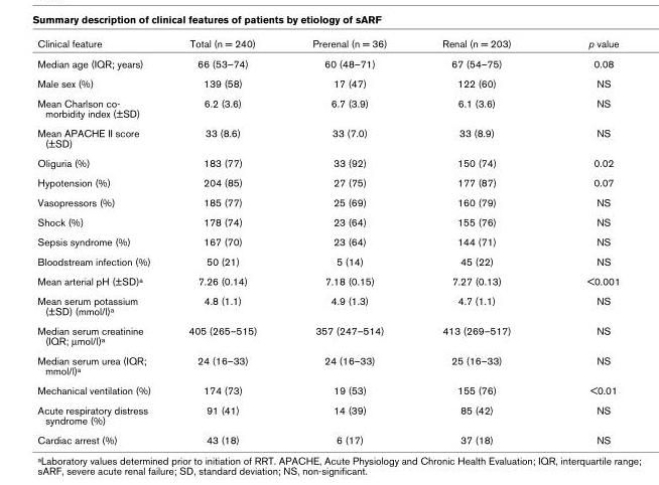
<table><thead><tr><td>Clinical feature</td><td>Total (n = 240)</td><td>Prerenal (n = 36)</td><td>Renal (n = 203)</td><td>p value</td></tr></thead><tbody><tr><td>Median age (IQR; years)</td><td>66 (53–74)</td><td>60 (48–71)</td><td>67 (54–75)</td><td>0.08</td></tr><tr><td>Male sex (%)</td><td>139 (58)</td><td>17 (47)</td><td>122 (60)</td><td>NS</td></tr><tr><td>Mean Charlson co- morbidity index (±SD)</td><td>6.2 (3.6)</td><td>6.7 (3.9)</td><td>6.1 (3.6)</td><td>NS</td></tr><tr><td>Mean APACHE II score (±SD)</td><td>33 (8.6)</td><td>33 (7.0)</td><td>33 (8.9)</td><td>NS</td></tr><tr><td>Oliguria (%)</td><td>183 (77)</td><td>33 (92)</td><td>150 (74)</td><td>0.02</td></tr><tr><td>Hypotension (%)</td><td>204 (85)</td><td>27 (75)</td><td>177 (87)</td><td>0.07</td></tr><tr><td>Vasopressors (%)</td><td>185 (77)</td><td>25 (69)</td><td>160 (79)</td><td>NS</td></tr><tr><td>Shock (%)</td><td>178 (74)</td><td>23 (64)</td><td>155 (76)</td><td>NS</td></tr><tr><td>Sepsis syndrome (%)</td><td>167 (70)</td><td>23 (64)</td><td>144 (71)</td><td>NS</td></tr><tr><td>Bloodstream infection (%)</td><td>50 (21)</td><td>5 (14)</td><td>45 (22)</td><td>NS</td></tr><tr><td>Mean arterial pH (±SD)a</td><td>7.26 (0.14)</td><td>7.18 (0.15)</td><td>7.27 (0.13)</td><td>&lt;0.001</td></tr><tr><td>Mean serum potassium (±SD) (mmol/l)a</td><td>4.8 (1.1)</td><td>4.9 (1.3)</td><td>4.7 (1.1)</td><td>NS</td></tr><tr><td>Median serum creatinine (IQR; µmol/l)a</td><td>405 (265–515)</td><td>357 (247–514)</td><td>413 (269–517)</td><td>NS</td></tr><tr><td>Median serum urea (IQR; mmol/l)a</td><td>24 (16–33)</td><td>24 (16–33)</td><td>25 (16–33)</td><td>NS</td></tr><tr><td>Mechanical ventilation (%)</td><td>174 (73)</td><td>19 (53)</td><td>155 (76)</td><td>&lt;0.01</td></tr><tr><td>Acute respiratory distress syndrome (%)</td><td>91 (41)</td><td>14 (39)</td><td>85 (42)</td><td>NS</td></tr><tr><td>Cardiac arrest (%)</td><td>43 (18)</td><td>6 (17)</td><td>37 (18)</td><td>NS</td></tr></tbody></table>